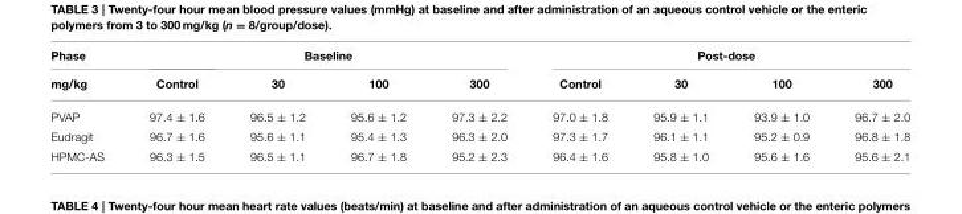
<table><thead><tr><td rowspan="2">Phase mg/kg</td><td colspan="4">Baseline</td><td colspan="4">Post-dose</td></tr><tr><td>Control</td><td>30</td><td>100</td><td>300</td><td>Control</td><td>30</td><td>100</td><td>300</td></tr></thead><tbody><tr><td>PVAP</td><td>97.4 ± 1.6</td><td>96.5 ± 1.2</td><td>95.6 ± 1.2</td><td>97.3 ± 2.2</td><td>97.0 ± 1.8</td><td>95.9 ± 1.1</td><td>93.9 ± 1.0</td><td>96.7 ± 2.0</td></tr><tr><td>Eudragit</td><td>96.7 ± 1.6</td><td>95.6 ± 1.1</td><td>95.4 ± 1.3</td><td>96.3 ± 2.0</td><td>97.3 ± 1.7</td><td>96.1 ± 1.1</td><td>95.2 ± 0.9</td><td>96.8 ± 1.8</td></tr><tr><td>HPMC-AS</td><td>96.3 ± 1.5</td><td>96.5 ± 1.1</td><td>96.7 ± 1.8</td><td>95.2 ± 2.3</td><td>96.4 ± 1.6</td><td>95.8 ± 1.0</td><td>95.6 ± 1.6</td><td>95.6 ± 2.1</td></tr></tbody></table>